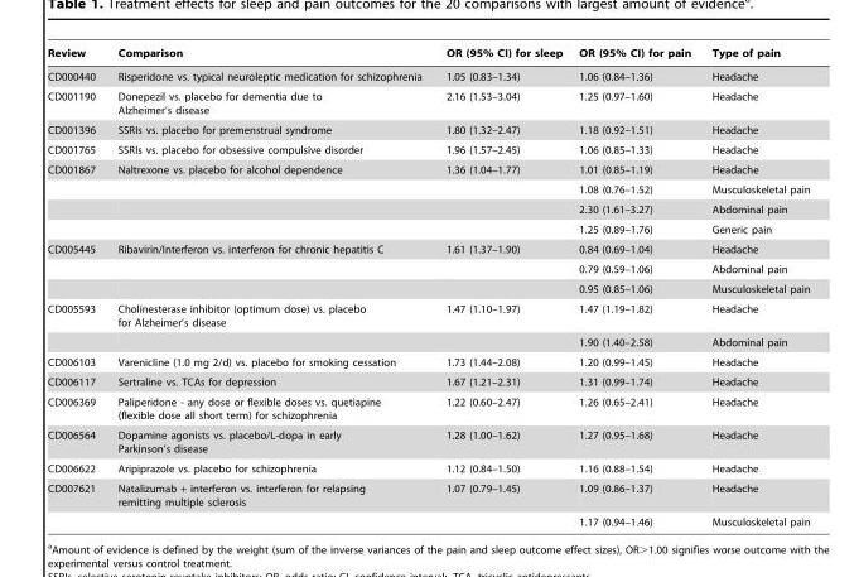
<table><thead><tr><td>Review</td><td>Comparison</td><td>OR (95% CI) for sleep</td><td>OR (95% CI) for pain</td><td>Type of pain</td></tr></thead><tbody><tr><td>CD000440</td><td>Risperidone vs. typical neuroleptic medication for schizophrenia</td><td>1.05 (0.83–1.34)</td><td>1.06 (0.84–1.36)</td><td>Headache</td></tr><tr><td>CD001190</td><td>Donepezil vs. placebo for dementia due to Alzheimer’s disease</td><td>2.16 (1.53–3.04)</td><td>1.25 (0.97–1.60)</td><td>Headache</td></tr><tr><td>CD001396</td><td>SSRIs vs. placebo for premenstrual syndrome</td><td>1.80 (1.32–2.47)</td><td>1.18 (0.92–1.51)</td><td>Headache</td></tr><tr><td>CD001765</td><td>SSRIs vs. placebo for obsessive compulsive disorder</td><td>1.96 (1.57–2.45)</td><td>1.06 (0.85–1.33)</td><td>Headache</td></tr><tr><td rowspan="4">CD001867</td><td>Naltrexone vs. placebo for alcohol dependence</td><td>1.36 (1.04–1.77)</td><td>1.01 (0.85–1.19)</td><td>Headache</td></tr><tr><td></td><td></td><td>1.08 (0.76–1.52)</td><td>Musculoskeletal pain</td></tr><tr><td></td><td></td><td>2.30 (1.61–3.27)</td><td>Abdominal pain</td></tr><tr><td></td><td></td><td>1.25 (0.89–1.76)</td><td>Generic pain</td></tr><tr><td rowspan="3">CD005445</td><td>Ribavirin/Interferon vs. interferon for chronic hepatitis C</td><td>1.61 (1.37–1.90)</td><td>0.84 (0.69–1.04)</td><td>Headache</td></tr><tr><td></td><td></td><td>0.79 (0.59–1.06)</td><td>Abdominal pain</td></tr><tr><td></td><td></td><td>0.95 (0.85–1.06)</td><td>Musculoskeletal pain</td></tr><tr><td rowspan="2">CD005593</td><td>Cholinesterase inhibitor (optimum dose) vs. placebo for Alzheimer’s disease</td><td>1.47 (1.10–1.97)</td><td>1.47 (1.19–1.82)</td><td>Headache</td></tr><tr><td></td><td></td><td>1.90 (1.40–2.58)</td><td>Abdominal pain</td></tr><tr><td>CD006103</td><td>Varenicline (1.0 mg 2/d) vs. placebo for smoking cessation</td><td>1.73 (1.44–2.08)</td><td>1.20 (0.99–1.45)</td><td>Headache</td></tr><tr><td>CD006117</td><td>Sertraline vs. TCAs for depression</td><td>1.67 (1.21–2.31)</td><td>1.31 (0.99–1.74)</td><td>Headache</td></tr><tr><td>CD006369</td><td>Paliperidone - any dose or flexible doses vs. quetiapine (flexible dose all short term) for schizophrenia</td><td>1.22 (0.60–2.47)</td><td>1.26 (0.65–2.41)</td><td>Headache</td></tr><tr><td>CD006564</td><td>Dopamine agonists vs. placebo/L-dopa in early Parkinson’s disease</td><td>1.28 (1.00–1.62)</td><td>1.27 (0.95–1.68)</td><td>Headache</td></tr><tr><td>CD006622</td><td>Aripiprazole vs. placebo for schizophrenia</td><td>1.12 (0.84–1.50)</td><td>1.16 (0.88–1.54)</td><td>Headache</td></tr><tr><td rowspan="2">CD007621</td><td>Natalizumab + interferon vs. interferon for relapsing remitting multiple sclerosis</td><td>1.07 (0.79–1.45)</td><td>1.09 (0.86–1.37)</td><td>Headache</td></tr><tr><td></td><td></td><td>1.17 (0.94–1.46)</td><td>Musculoskeletal pain</td></tr></tbody></table>